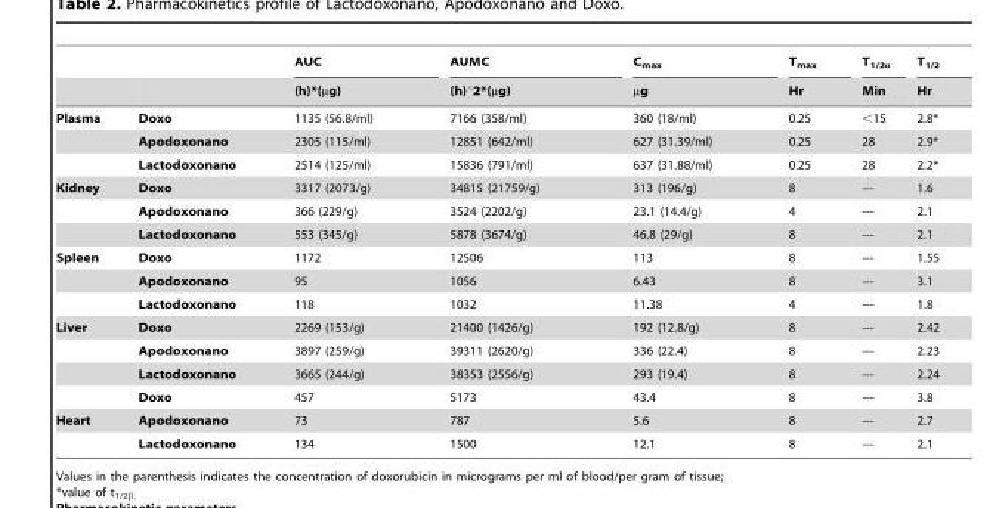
<table><thead><tr><td rowspan="2"></td><td rowspan="2"></td><td rowspan="2">AUC (h)*(µg)</td><td rowspan="2">AUMC (h)‘2*(mg)</td><td rowspan="2">C<sub>max</sub> µg</td><td rowspan="2">T<sub>max</sub> Hr</td><td rowspan="2">T<sub>1/2α</sub> Min</td><td rowspan="2">T<sub>1/2</sub> Hr</td></tr><tr></tr></thead><tbody><tr><td rowspan="3">Plasma</td><td>Doxo</td><td>1135 (56.8/ml)</td><td>7166 (358/ml)</td><td>360 (18/ml)</td><td>0.25</td><td>&lt;15</td><td>2.8*</td></tr><tr><td>Apodoxonano</td><td>2305 (115/ml)</td><td>12851 (642/ml)</td><td>627 (31.39/ml)</td><td>0.25</td><td>28</td><td>2.9*</td></tr><tr><td>Lactodoxonano</td><td>2514 (125/ml)</td><td>15836 (791/ml)</td><td>637 (31.88/ml)</td><td>0.25</td><td>28</td><td>2.2*</td></tr><tr><td rowspan="3">Kidney</td><td>Doxo</td><td>3317 (2073/g)</td><td>34815 (21759/g)</td><td>313 (196/g)</td><td>8</td><td>---</td><td>1.6</td></tr><tr><td>Apodoxonano</td><td>366 (229/g)</td><td>3524 (2202/g)</td><td>23.1 (14.4/g)</td><td>4</td><td>---</td><td>2.1</td></tr><tr><td>Lactodoxonano</td><td>553 (345/g)</td><td>5878 (3674/g)</td><td>46.8 (29/g)</td><td>8</td><td>---</td><td>2.1</td></tr><tr><td rowspan="3">Spleen</td><td>Doxo</td><td>1172</td><td>12506</td><td>113</td><td>8</td><td>---</td><td>1.55</td></tr><tr><td>Apodoxonano</td><td>95</td><td>1056</td><td>6.43</td><td>8</td><td>---</td><td>3.1</td></tr><tr><td>Lactodoxonano</td><td>118</td><td>1032</td><td>11.38</td><td>4</td><td>---</td><td>1.8</td></tr><tr><td rowspan="4">Liver</td><td>Doxo</td><td>2269 (153/g)</td><td>21400 (1426/g)</td><td>192 (12.8/g)</td><td>8</td><td>---</td><td>2.42</td></tr><tr><td>Apodoxonano</td><td>3897 (259/g)</td><td>39311 (2620/g)</td><td>336 (22.4)</td><td>8</td><td>---</td><td>2.23</td></tr><tr><td>Lactodoxonano</td><td>3665 (244/g)</td><td>38353 (2556/g)</td><td>293 (19.4)</td><td>8</td><td>---</td><td>2.24</td></tr><tr><td>Doxo</td><td>457</td><td>5173</td><td>43.4</td><td>8</td><td>---</td><td>3.8</td></tr><tr><td rowspan="2">Heart</td><td>Apodoxonano</td><td>73</td><td>787</td><td>5.6</td><td>8</td><td>---</td><td>2.7</td></tr><tr><td>Lactodoxonano</td><td>134</td><td>1500</td><td>12.1</td><td>8</td><td>---</td><td>2.1</td></tr></tbody></table>